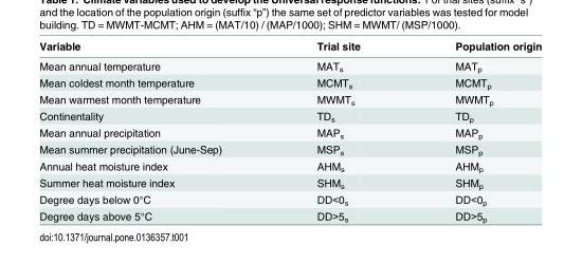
<table><thead><tr><td>Variable</td><td>Trial site</td><td>Population origin</td></tr></thead><tbody><tr><td>Mean annual temperature</td><td>MAT<sub>s</sub></td><td>MAT<sub>p</sub></td></tr><tr><td>Mean coldest month temperature</td><td>MCMT<sub>s</sub></td><td>MCMT<sub>p</sub></td></tr><tr><td>Mean warmest month temperature</td><td>MWMT<sub>s</sub></td><td>MWMT<sub>p</sub></td></tr><tr><td>Continentality</td><td>TD<sub>s</sub></td><td>TD<sub>p</sub></td></tr><tr><td>Mean annual precipitation</td><td>MAP<sub>s</sub></td><td>MAP<sub>p</sub></td></tr><tr><td>Mean summer precipitation (June-Sep)</td><td>MSP<sub>s</sub></td><td>MSP<sub>p</sub></td></tr><tr><td>Annual heat moisture index</td><td>AHM<sub>s</sub></td><td>AHM<sub>p</sub></td></tr><tr><td>Summer heat moisture index</td><td>SHM<sub>s</sub></td><td>SHM<sub>p</sub></td></tr><tr><td>Degree days below 0°C</td><td>DD&lt;0<sub>s</sub></td><td>DD&lt;0<sub>p</sub></td></tr><tr><td>Degree days above 5°C</td><td>DD&gt;5<sub>s</sub></td><td>DD&gt;5<sub>p</sub></td></tr></tbody></table>